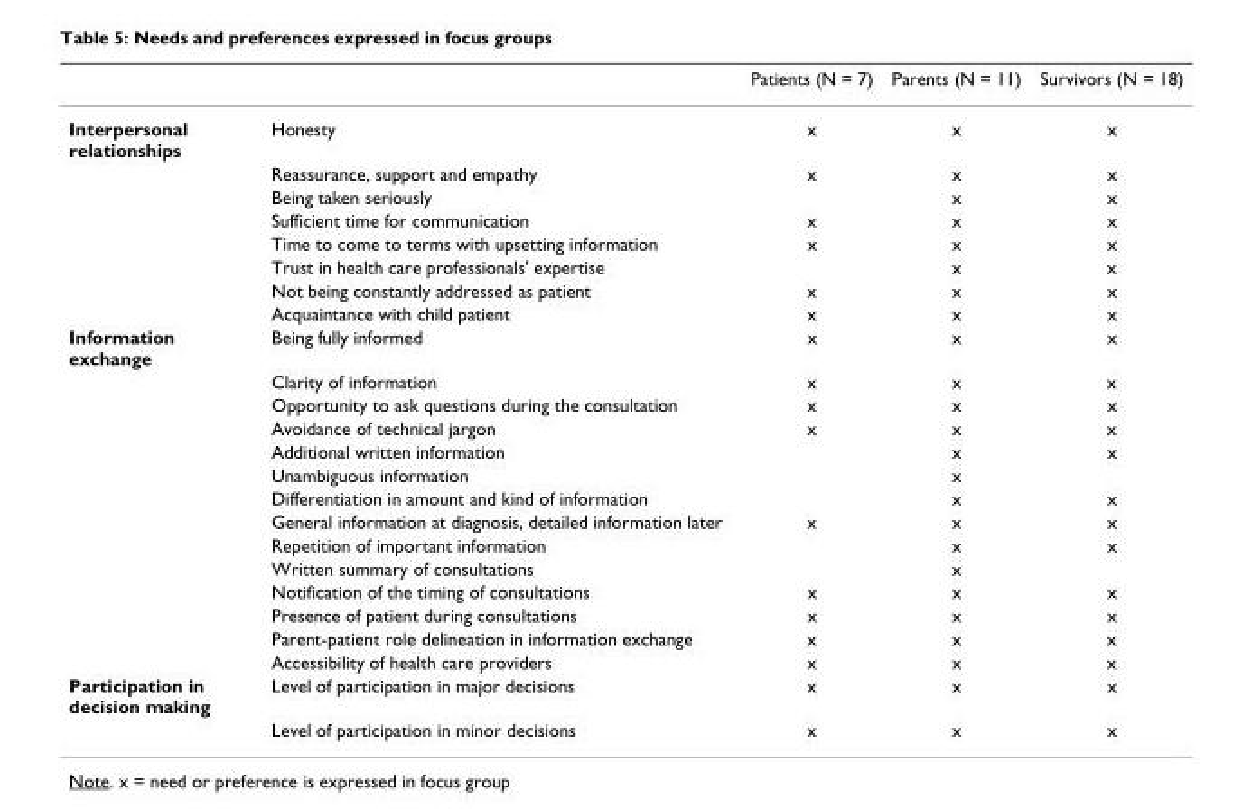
<table><thead><tr><td></td><td></td><td>Patients (N = 7)</td><td>Parents (N = 11)</td><td>Survivors (N = 18)</td></tr></thead><tbody><tr><td rowspan="8">Interpersonal relationships</td><td>Honesty</td><td>x</td><td>x</td><td>x</td></tr><tr><td>Reassurance, support and empathy</td><td>x</td><td>x</td><td>x</td></tr><tr><td>Being taken seriously</td><td></td><td>x</td><td>x</td></tr><tr><td>Sufficient time for communication</td><td>x</td><td>x</td><td>x</td></tr><tr><td>Time to come to terms with upsetting information</td><td>x</td><td>x</td><td>x</td></tr><tr><td>Trust in health care professionals&#x27; expertise</td><td></td><td>x</td><td>x</td></tr><tr><td>Not being constantly addressed as patient</td><td>x</td><td>x</td><td>x</td></tr><tr><td>Acquaintance with child patient</td><td>x</td><td>x</td><td>x</td></tr><tr><td rowspan="14">Information exchange</td><td>Being fully informed</td><td>x</td><td>x</td><td>x</td></tr><tr><td>Clarity of information</td><td>x</td><td>x</td><td>x</td></tr><tr><td>Opportunity to ask questions during the consultation</td><td>x</td><td>x</td><td>x</td></tr><tr><td>Avoidance of technical jargon</td><td>x</td><td>x</td><td>x</td></tr><tr><td>Additional written information</td><td></td><td>x</td><td>x</td></tr><tr><td>Unambiguous information</td><td></td><td>x</td><td></td></tr><tr><td>Differentiation in amount and kind of information</td><td></td><td>x</td><td>x</td></tr><tr><td>General information at diagnosis, detailed information later</td><td>x</td><td>x</td><td>x</td></tr><tr><td>Repetition of important information</td><td></td><td>x</td><td>x</td></tr><tr><td>Written summary of consultations</td><td></td><td>x</td><td></td></tr><tr><td>Notification of the timing of consultations</td><td>x</td><td>x</td><td>x</td></tr><tr><td>Presence of patient during consultations</td><td>x</td><td>x</td><td>x</td></tr><tr><td>Parent-patient role delineation in information exchange</td><td>x</td><td>x</td><td>x</td></tr><tr><td>Accessibility of health care providers</td><td>x</td><td>x</td><td>x</td></tr><tr><td rowspan="2">Participation in decision making</td><td>Level of participation in major decisions</td><td>x</td><td>x</td><td>x</td></tr><tr><td>Level of participation in minor decisions</td><td>x</td><td>x</td><td>x</td></tr></tbody></table>